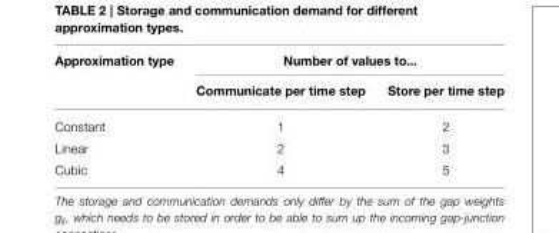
<table><thead><tr><td rowspan="2">Approximation type</td><td colspan="2">Number of values to...</td></tr><tr><td>Communicate per time step</td><td>Store per time step</td></tr></thead><tbody><tr><td>Constant</td><td>1</td><td>2</td></tr><tr><td>Linear</td><td>2</td><td>3</td></tr><tr><td>Cubic</td><td>4</td><td>5</td></tr></tbody></table>